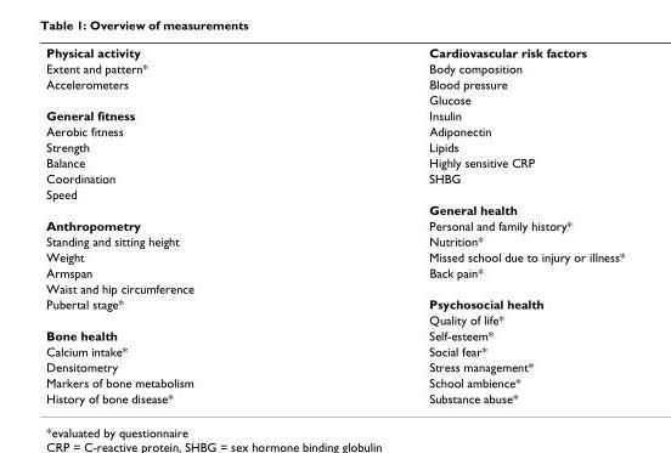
<table><tbody><tr><td>Physical activity</td><td>Cardiovascular risk factors</td></tr><tr><td>Extent and pattern*</td><td>Body composition</td></tr><tr><td rowspan="2">Accelerometers</td><td>Blood pressure</td></tr><tr><td>Glucose</td></tr><tr><td>General fitness</td><td>Insulin</td></tr><tr><td>Aerobic fitness</td><td>Adiponectin</td></tr><tr><td>Strength</td><td>Lipids</td></tr><tr><td>Balance</td><td>Highly sensitive CRP</td></tr><tr><td>Coordination</td><td>SHBG</td></tr><tr><td colspan="2">Speed</td></tr><tr><td></td><td>General health</td></tr><tr><td>Anthropometry</td><td>Personal and family history*</td></tr><tr><td>Standing and sitting height</td><td>Nutrition*</td></tr><tr><td>Weight</td><td>Missed school due to injury or illness*</td></tr><tr><td>Armspan</td><td>Back pain*</td></tr><tr><td colspan="2">Waist and hip circumference</td></tr><tr><td rowspan="2">Pubertal stage*</td><td>Psychosocial health</td></tr><tr><td>Quality of life*</td></tr><tr><td>Bone health</td><td>Self-esteem*</td></tr><tr><td>Calcium intake*</td><td>Social fear*</td></tr><tr><td>Densitometry</td><td>Stress management*</td></tr><tr><td>Markers of bone metabolism</td><td>School ambience*</td></tr><tr><td>History of bone disease*</td><td>Substance abuse*</td></tr></tbody></table>